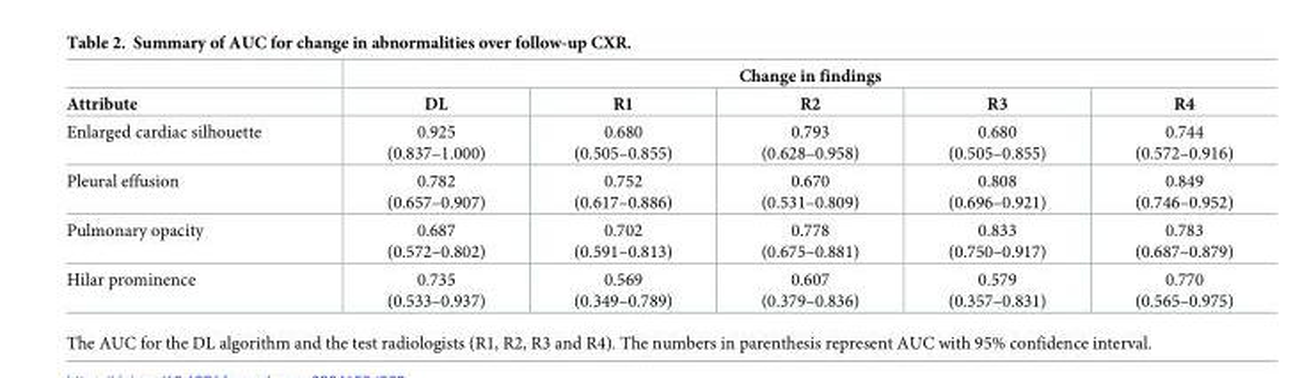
<table><thead><tr><td rowspan="2">Attribute</td><td colspan="5">Change in findings</td></tr><tr><td>DL</td><td>R1</td><td>R2</td><td>R3</td><td>R4</td></tr></thead><tbody><tr><td>Enlarged cardiac silhouette</td><td>0.925 (0.837–1.000)</td><td>0.680 (0.505–0.855)</td><td>0.793 (0.628–0.958)</td><td>0.680 (0.505–0.855)</td><td>0.744 (0.572–0.916)</td></tr><tr><td>Pleural effusion</td><td>0.782 (0.657–0.907)</td><td>0.752 (0.617–0.886)</td><td>0.670 (0.531–0.809)</td><td>0.808 (0.696–0.921)</td><td>0.849 (0.746–0.952)</td></tr><tr><td>Pulmonary opacity</td><td>0.687 (0.572–0.802)</td><td>0.702 (0.591–0.813)</td><td>0.778 (0.675–0.881)</td><td>0.833 (0.750–0.917)</td><td>0.783 (0.687–0.879)</td></tr><tr><td>Hilar prominence</td><td>0.735 (0.533–0.937)</td><td>0.569 (0.349–0.789)</td><td>0.607 (0.379–0.836)</td><td>0.579 (0.357–0.831)</td><td>0.770 (0.565–0.975)</td></tr></tbody></table>